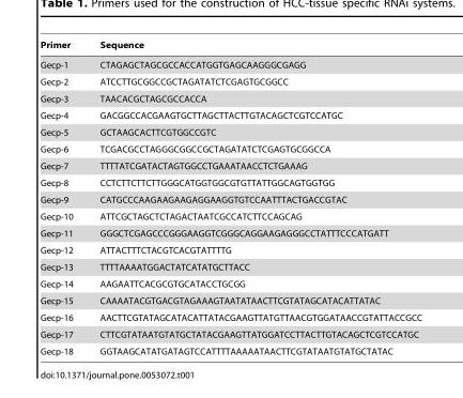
<table><thead><tr><td>Primer</td><td>Sequence</td></tr></thead><tbody><tr><td>Gecp-1</td><td>CTAGAGCTAGCGCCACCATGGTGAGCAAGGGCGAGG</td></tr><tr><td>Gecp-2</td><td>ATCCTTGCGGCCGCTAGATATCTCGAGTGCGGCC</td></tr><tr><td>Gecp-3</td><td>TAACACGCTAGCGCCACCA</td></tr><tr><td>Gecp-4</td><td>GACGGCCACGAAGTGCTTAGCTTACTTGTACAGCTCGTCCATGC</td></tr><tr><td>Gecp-5</td><td>GCTAAGCACTTCGTGGCCGTC</td></tr><tr><td>Gecp-6</td><td>TCGACGCCTAGGGCGGCCGCTAGATATCTCGAGTGCGGCCA</td></tr><tr><td>Gecp-7</td><td>TTTTATCGATACTAGTGGCCTGAAATAACCTCTGAAAG</td></tr><tr><td>Gecp-8</td><td>CCTCTTCTTCTTGGGCATGGTGGCGTGTTATTGGCAGTGGTGG</td></tr><tr><td>Gecp-9</td><td>CATGCCCAAGAAGAAGAGGAAGGTGTCCAATTTACTGACCGTAC</td></tr><tr><td>Gecp-10</td><td>ATTCGCTAGCTCTAGACTAATCGCCATCTTCCAGCAG</td></tr><tr><td>Gecp-11</td><td>GGGCTCGAGCCCGGGAAGGTCGGGCAGGAAGAGGGCCTATTTCCCATGATT</td></tr><tr><td>Gecp-12</td><td>ATTACTTTCTACGTCACGTATTTTG</td></tr><tr><td>Gecp-13</td><td>TTTTAAAATGGACTATCATATGCTTACC</td></tr><tr><td>Gecp-14</td><td>AAGAATTCACGCGTGCATACCTGCGG</td></tr><tr><td>Gecp-15</td><td>CAAAATACGTGACGTAGAAAGTAATATAACTTCGTATAGCATACATTATAC</td></tr><tr><td>Gecp-16</td><td>AACTTCGTATAGCATACATTATACGAAGTTATGTTAACGTGGATAACCGTATTACCGCC</td></tr><tr><td>Gecp-17</td><td>CTTCGTATAATGTATGCTATACGAAGTTATGGATCCTTACTTGTACAGCTCGTCCATGC</td></tr><tr><td>Gecp-18</td><td>GGTAAGCATATGATAGTCCATTTTAAAAATAACTTCGTATAATGTATGCTATAC</td></tr></tbody></table>